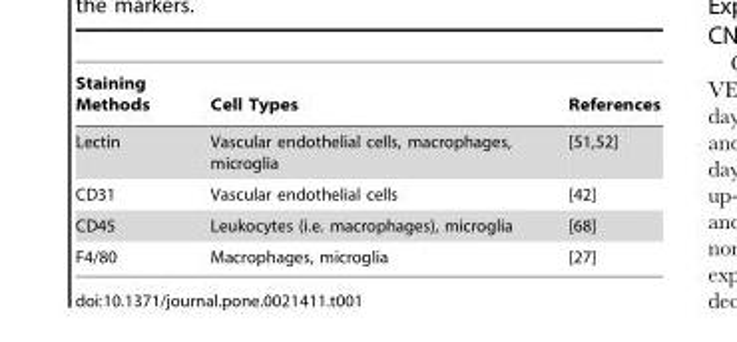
<table><thead><tr><td>Staining Methods</td><td>Cell Types</td><td>References</td></tr></thead><tbody><tr><td>Lectin</td><td>Vascular endothelial cells, macrophages, microglia</td><td>[51,52]</td></tr><tr><td>CD31</td><td>Vascular endothelial cells</td><td>[42]</td></tr><tr><td>CD45</td><td>Leukocytes (i.e. macrophages), microglia</td><td>[68]</td></tr><tr><td>F4/80</td><td>Macrophages, microglia</td><td>[27]</td></tr></tbody></table>